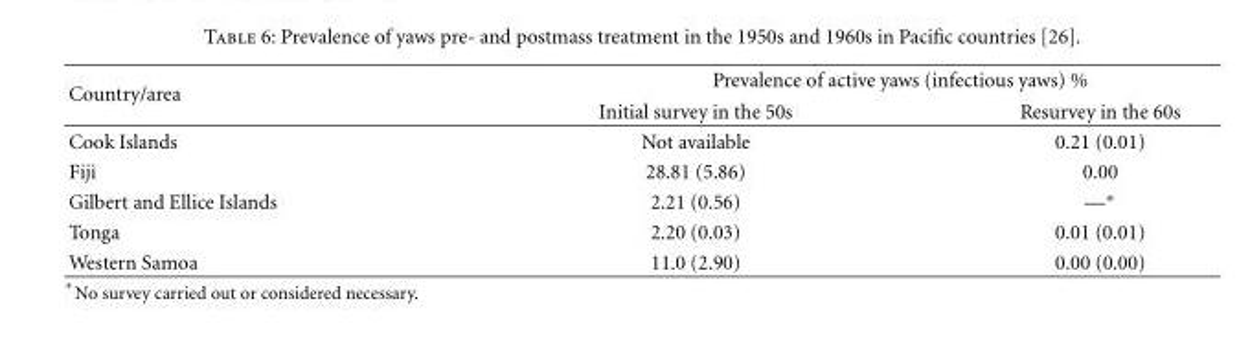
<table><thead><tr><td rowspan="2">Country/area</td><td colspan="2">Prevalence of active yaws (infectious yaws) %</td></tr><tr><td>Initial survey in the 50s</td><td>Resurvey in the 60s</td></tr></thead><tbody><tr><td>Cook Islands</td><td>Not available</td><td>0.21 (0.01)</td></tr><tr><td>Fiji</td><td>28.81 (5.86)</td><td>0.00</td></tr><tr><td>Gilbert and Ellice Islands</td><td>2.21 (0.56)</td><td>—∗</td></tr><tr><td>Tonga</td><td>2.20 (0.03)</td><td>0.01 (0.01)</td></tr><tr><td>Western Samoa</td><td>11.0 (2.90)</td><td>0.00 (0.00)</td></tr></tbody></table>